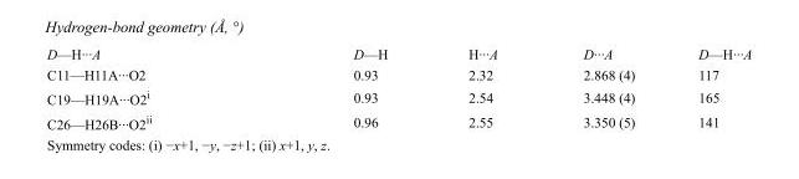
<table><tbody><tr><td>D—H···A</td><td>D—H</td><td>H···A</td><td>D···A</td><td>D—H···A</td></tr><tr><td>C11—H11A···O2</td><td>0.93</td><td>2.32</td><td>2.868 (4)</td><td>117</td></tr><tr><td>C19—H19A···O2<sup>i</sup></td><td>0.93</td><td>2.54</td><td>3.448 (4)</td><td>165</td></tr><tr><td>C26—H26B···O2<sup>ii</sup></td><td>0.96</td><td>2.55</td><td>3.350 (5)</td><td>141</td></tr></tbody></table>